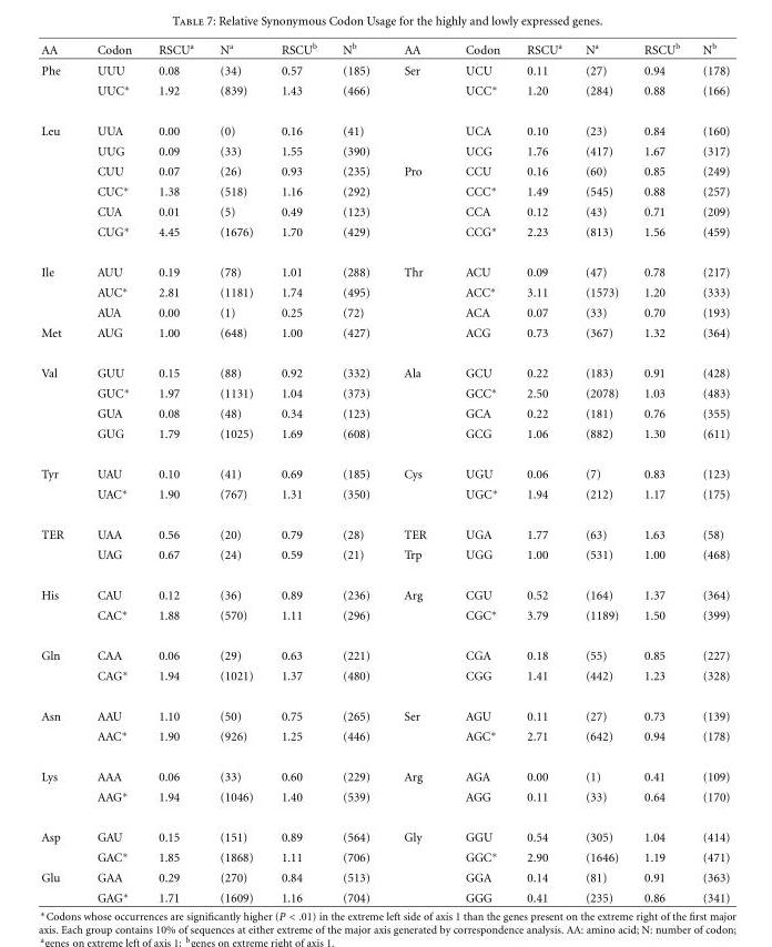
<table><thead><tr><td>AA</td><td>Codon</td><td>RSCU<sup>a</sup></td><td>N<sup>a</sup></td><td>RSCU<sup>b</sup></td><td>N<sup>b</sup></td><td>AA</td><td>Codon</td><td>RSCU<sup>a</sup></td><td>N<sup>a</sup></td><td>RSCU<sup>b</sup></td><td>N<sup>b</sup></td></tr></thead><tbody><tr><td rowspan="2">Phe</td><td>UUU</td><td>0.08</td><td>(34)</td><td>0.57</td><td>(185)</td><td>Ser</td><td>UCU</td><td>0.11</td><td>(27)</td><td>0.94</td><td>(178)</td></tr><tr><td>UUC∗</td><td>1.92</td><td>(839)</td><td>1.43</td><td>(466)</td><td></td><td>UCC∗</td><td>1.20</td><td>(284)</td><td>0.88</td><td>(166)</td></tr><tr><td rowspan="6">Leu</td><td>UUA</td><td>0.00</td><td>(0)</td><td>0.16</td><td>(41)</td><td></td><td>UCA</td><td>0.10</td><td>(23)</td><td>0.84</td><td>(160)</td></tr><tr><td>UUG</td><td>0.09</td><td>(33)</td><td>1.55</td><td>(390)</td><td></td><td>UCG</td><td>1.76</td><td>(417)</td><td>1.67</td><td>(317)</td></tr><tr><td>CUU</td><td>0.07</td><td>(26)</td><td>0.93</td><td>(235)</td><td>Pro</td><td>CCU</td><td>0.16</td><td>(60)</td><td>0.85</td><td>(249)</td></tr><tr><td>CUC∗</td><td>1.38</td><td>(518)</td><td>1.16</td><td>(292)</td><td></td><td>CCC∗</td><td>1.49</td><td>(545)</td><td>0.88</td><td>(257)</td></tr><tr><td>CUA</td><td>0.01</td><td>(5)</td><td>0.49</td><td>(123)</td><td></td><td>CCA</td><td>0.12</td><td>(43)</td><td>0.71</td><td>(209)</td></tr><tr><td>CUG∗</td><td>4.45</td><td>(1676)</td><td>1.70</td><td>(429)</td><td></td><td>CCG∗</td><td>2.23</td><td>(813)</td><td>1.56</td><td>(459)</td></tr><tr><td rowspan="3">Ile</td><td>AUU</td><td>0.19</td><td>(78)</td><td>1.01</td><td>(288)</td><td>Thr</td><td>ACU</td><td>0.09</td><td>(47)</td><td>0.78</td><td>(217)</td></tr><tr><td>AUC∗</td><td>2.81</td><td>(1181)</td><td>1.74</td><td>(495)</td><td></td><td>ACC∗</td><td>3.11</td><td>(1573)</td><td>1.20</td><td>(333)</td></tr><tr><td>AUA</td><td>0.00</td><td>(1)</td><td>0.25</td><td>(72)</td><td></td><td>ACA</td><td>0.07</td><td>(33)</td><td>0.70</td><td>(193)</td></tr><tr><td>Met</td><td>AUG</td><td>1.00</td><td>(648)</td><td>1.00</td><td>(427)</td><td></td><td>ACG</td><td>0.73</td><td>(367)</td><td>1.32</td><td>(364)</td></tr><tr><td rowspan="4">Val</td><td>GUU</td><td>0.15</td><td>(88)</td><td>0.92</td><td>(332)</td><td>Ala</td><td>GCU</td><td>0.22</td><td>(183)</td><td>0.91</td><td>(428)</td></tr><tr><td>GUC∗</td><td>1.97</td><td>(1131)</td><td>1.04</td><td>(373)</td><td></td><td>GCC∗</td><td>2.50</td><td>(2078)</td><td>1.03</td><td>(483)</td></tr><tr><td>GUA</td><td>0.08</td><td>(48)</td><td>0.34</td><td>(123)</td><td></td><td>GCA</td><td>0.22</td><td>(181)</td><td>0.76</td><td>(355)</td></tr><tr><td>GUG</td><td>1.79</td><td>(1025)</td><td>1.69</td><td>(608)</td><td></td><td>GCG</td><td>1.06</td><td>(882)</td><td>1.30</td><td>(611)</td></tr><tr><td rowspan="2">Tyr</td><td>UAU</td><td>0.10</td><td>(41)</td><td>0.69</td><td>(185)</td><td>Cys</td><td>UGU</td><td>0.06</td><td>(7)</td><td>0.83</td><td>(123)</td></tr><tr><td>UAC∗</td><td>1.90</td><td>(767)</td><td>1.31</td><td>(350)</td><td></td><td>UGC∗</td><td>1.94</td><td>(212)</td><td>1.17</td><td>(175)</td></tr><tr><td rowspan="2">TER</td><td>UAA</td><td>0.56</td><td>(20)</td><td>0.79</td><td>(28)</td><td>TER</td><td>UGA</td><td>1.77</td><td>(63)</td><td>1.63</td><td>(58)</td></tr><tr><td>UAG</td><td>0.67</td><td>(24)</td><td>0.59</td><td>(21)</td><td>Trp</td><td>UGG</td><td>1.00</td><td>(531)</td><td>1.00</td><td>(468)</td></tr><tr><td rowspan="2">His</td><td>CAU</td><td>0.12</td><td>(36)</td><td>0.89</td><td>(236)</td><td>Arg</td><td>CGU</td><td>0.52</td><td>(164)</td><td>1.37</td><td>(364)</td></tr><tr><td>CAC∗</td><td>1.88</td><td>(570)</td><td>1.11</td><td>(296)</td><td></td><td>CGC∗</td><td>3.79</td><td>(1189)</td><td>1.50</td><td>(399)</td></tr><tr><td rowspan="2">Gln</td><td>CAA</td><td>0.06</td><td>(29)</td><td>0.63</td><td>(221)</td><td></td><td>CGA</td><td>0.18</td><td>(55)</td><td>0.85</td><td>(227)</td></tr><tr><td>CAG∗</td><td>1.94</td><td>(1021)</td><td>1.37</td><td>(480)</td><td></td><td>CGG</td><td>1.41</td><td>(442)</td><td>1.23</td><td>(328)</td></tr><tr><td rowspan="2">Asn</td><td>AAU</td><td>1.10</td><td>(50)</td><td>0.75</td><td>(265)</td><td>Ser</td><td>AGU</td><td>0.11</td><td>(27)</td><td>0.73</td><td>(139)</td></tr><tr><td>AAC∗</td><td>1.90</td><td>(926)</td><td>1.25</td><td>(446)</td><td></td><td>AGC∗</td><td>2.71</td><td>(642)</td><td>0.94</td><td>(178)</td></tr><tr><td rowspan="2">Lys</td><td>AAA</td><td>0.06</td><td>(33)</td><td>0.60</td><td>(229)</td><td>Arg</td><td>AGA</td><td>0.00</td><td>(1)</td><td>0.41</td><td>(109)</td></tr><tr><td>AAG∗</td><td>1.94</td><td>(1046)</td><td>1.40</td><td>(539)</td><td></td><td>AGG</td><td>0.11</td><td>(33)</td><td>0.64</td><td>(170)</td></tr><tr><td rowspan="2">Asp</td><td>GAU</td><td>0.15</td><td>(151)</td><td>0.89</td><td>(564)</td><td>Gly</td><td>GGU</td><td>0.54</td><td>(305)</td><td>1.04</td><td>(414)</td></tr><tr><td>GAC∗</td><td>1.85</td><td>(1868)</td><td>1.11</td><td>(706)</td><td></td><td>GGC∗</td><td>2.90</td><td>(1646)</td><td>1.19</td><td>(471)</td></tr><tr><td rowspan="2">Glu</td><td>GAA</td><td>0.29</td><td>(270)</td><td>0.84</td><td>(513)</td><td></td><td>GGA</td><td>0.14</td><td>(81)</td><td>0.91</td><td>(363)</td></tr><tr><td>GAG∗</td><td>1.71</td><td>(1609)</td><td>1.16</td><td>(704)</td><td></td><td>GGG</td><td>0.41</td><td>(235)</td><td>0.86</td><td>(341)</td></tr></tbody></table>